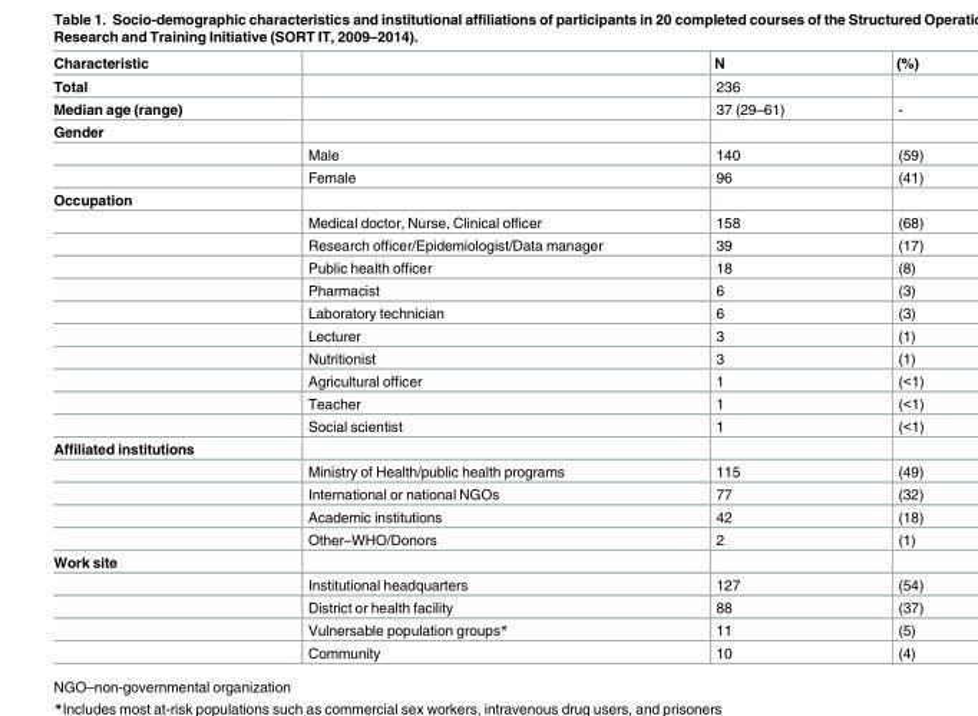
<table><thead><tr><td>Characteristic</td><td></td><td>N</td><td>(%)</td></tr></thead><tbody><tr><td>Total</td><td></td><td>236</td><td></td></tr><tr><td>Median age (range)</td><td></td><td>37 (29–61)</td><td>-</td></tr><tr><td colspan="4">Gender</td></tr><tr><td></td><td>Male</td><td>140</td><td>(59)</td></tr><tr><td></td><td>Female</td><td>96</td><td>(41)</td></tr><tr><td colspan="4">Occupation</td></tr><tr><td></td><td>Medical doctor, Nurse, Clinical officer</td><td>158</td><td>(68)</td></tr><tr><td></td><td>Research officer/Epidemiologist/Data manager</td><td>39</td><td>(17)</td></tr><tr><td></td><td>Public health officer</td><td>18</td><td>(8)</td></tr><tr><td></td><td>Pharmacist</td><td>6</td><td>(3)</td></tr><tr><td></td><td>Laboratory technician</td><td>6</td><td>(3)</td></tr><tr><td></td><td>Lecturer</td><td>3</td><td>(1)</td></tr><tr><td></td><td>Nutritionist</td><td>3</td><td>(1)</td></tr><tr><td></td><td>Agricultural officer</td><td>1</td><td>(&lt;1)</td></tr><tr><td></td><td>Teacher</td><td>1</td><td>(&lt;1)</td></tr><tr><td></td><td>Social scientist</td><td>1</td><td>(&lt;1)</td></tr><tr><td colspan="4">Affiliated institutions</td></tr><tr><td></td><td>Ministry of Health/public health programs</td><td>115</td><td>(49)</td></tr><tr><td></td><td>International or national NGOs</td><td>77</td><td>(32)</td></tr><tr><td></td><td>Academic institutions</td><td>42</td><td>(18)</td></tr><tr><td></td><td>Other–WHO/Donors</td><td>2</td><td>(1)</td></tr><tr><td colspan="4">Work site</td></tr><tr><td></td><td>Institutional headquarters</td><td>127</td><td>(54)</td></tr><tr><td></td><td>District or health facility</td><td>88</td><td>(37)</td></tr><tr><td></td><td>Vulnersable population groups*</td><td>11</td><td>(5)</td></tr><tr><td></td><td>Community</td><td>10</td><td>(4)</td></tr></tbody></table>